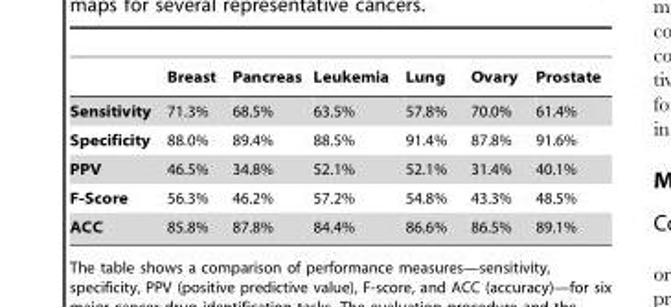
<table><thead><tr><td></td><td>Breast</td><td>Pancreas</td><td>Leukemia</td><td>Lung</td><td>Ovary</td><td>Prostate</td></tr></thead><tbody><tr><td>Sensitivity</td><td>71.3%</td><td>68.5%</td><td>63.5%</td><td>57.8%</td><td>70.0%</td><td>61.4%</td></tr><tr><td>Specificity</td><td>88.0%</td><td>89.4%</td><td>88.5%</td><td>91.4%</td><td>87.8%</td><td>91.6%</td></tr><tr><td>PPV</td><td>46.5%</td><td>34.8%</td><td>52.1%</td><td>52.1%</td><td>31.4%</td><td>40.1%</td></tr><tr><td>F-Score</td><td>56.3%</td><td>46.2%</td><td>57.2%</td><td>54.8%</td><td>43.3%</td><td>48.5%</td></tr><tr><td>ACC</td><td>85.8%</td><td>87.8%</td><td>84.4%</td><td>86.6%</td><td>86.5%</td><td>89.1%</td></tr></tbody></table>